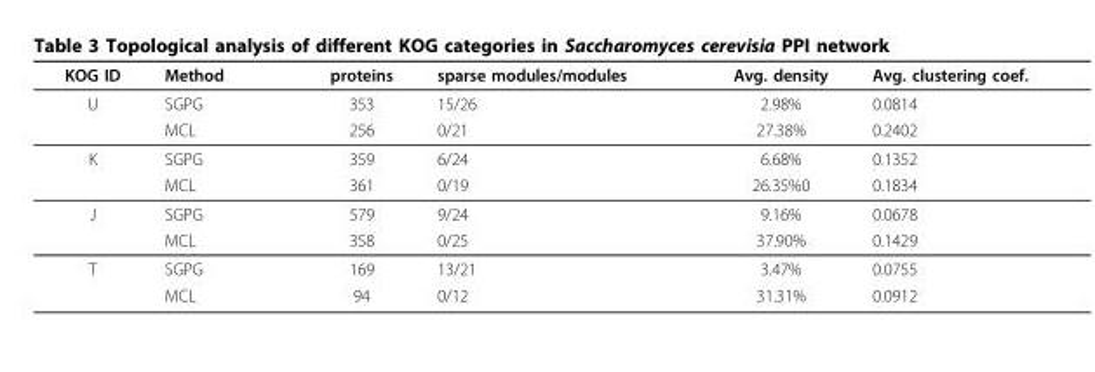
<table><thead><tr><td>KOG ID</td><td>Method</td><td>proteins</td><td>sparse modules/modules</td><td>Avg. density</td><td>Avg. clustering coef.</td></tr></thead><tbody><tr><td rowspan="2">U</td><td>SGPG</td><td>353</td><td>15/26</td><td>2.98%</td><td>0.0814</td></tr><tr><td>MCL</td><td>256</td><td>0/21</td><td>27.38%</td><td>0.2402</td></tr><tr><td rowspan="2">K</td><td>SGPG</td><td>359</td><td>6/24</td><td>6.68%</td><td>0.1352</td></tr><tr><td>MCL</td><td>361</td><td>0/19</td><td>26.35%0</td><td>0.1834</td></tr><tr><td rowspan="2">J</td><td>SGPG</td><td>579</td><td>9/24</td><td>9.16%</td><td>0.0678</td></tr><tr><td>MCL</td><td>358</td><td>0/25</td><td>37.90%</td><td>0.1429</td></tr><tr><td rowspan="2">T</td><td>SGPG</td><td>169</td><td>13/21</td><td>3.47%</td><td>0.0755</td></tr><tr><td>MCL</td><td>94</td><td>0/12</td><td>31.31%</td><td>0.0912</td></tr></tbody></table>